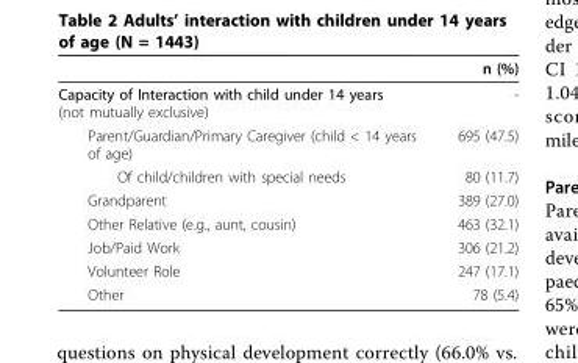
<table><thead><tr><td rowspan="2">Capacity of Interaction with child under 14 years (not mutually exclusive)</td><td rowspan="2">n (%) -</td></tr><tr></tr></thead><tbody><tr><td>Parent/Guardian/Primary Caregiver (child &lt; 14 years of age)</td><td>695 (47.5)</td></tr><tr><td>Of child/children with special needs</td><td>80 (11.7)</td></tr><tr><td>Grandparent</td><td>389 (27.0)</td></tr><tr><td>Other Relative (e.g., aunt, cousin)</td><td>463 (32.1)</td></tr><tr><td>Job/Paid Work</td><td>306 (21.2)</td></tr><tr><td>Volunteer Role</td><td>247 (17.1)</td></tr><tr><td>Other</td><td>78 (5.4)</td></tr></tbody></table>